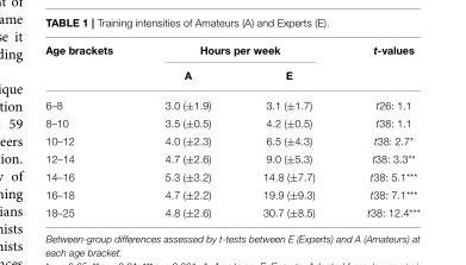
<table><thead><tr><td rowspan="2">Age brackets</td><td colspan="2">Hours per week</td><td rowspan="2">t-values</td></tr><tr><td>A</td><td>E</td></tr></thead><tbody><tr><td>6–8</td><td>3.0 (±1.9)</td><td>3.1 (±1.7)</td><td>t26: 1.1</td></tr><tr><td>8–10</td><td>3.5 (±0.5)</td><td>4.2 (±0.5)</td><td>t38: 1.1</td></tr><tr><td>10–12</td><td>4.0 (±2.3)</td><td>6.5 (±4.3)</td><td>t38: 2.7*</td></tr><tr><td>12–14</td><td>4.7 (±2.6)</td><td>9.0 (±5.3)</td><td>t38: 3.3**</td></tr><tr><td>14–16</td><td>5.3 (±3.2)</td><td>14.8 (±7.7)</td><td>t38: 5.1***</td></tr><tr><td>16–18</td><td>4.7 (±2.2)</td><td>19.9 (±9.3)</td><td>t38: 7.1***</td></tr><tr><td>18–25</td><td>4.8 (±2.6)</td><td>30.7 (±8.5)</td><td>t38: 12.4***</td></tr></tbody></table>